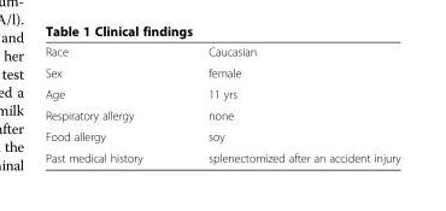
<table><tbody><tr><td>Race</td><td>Caucasian</td></tr><tr><td>Sex</td><td>female</td></tr><tr><td>Age</td><td>11 yrs</td></tr><tr><td>Respiratory allergy</td><td>none</td></tr><tr><td>Food allergy</td><td>soy</td></tr><tr><td>Past medical history</td><td>splenectomized after an accident injury</td></tr></tbody></table>